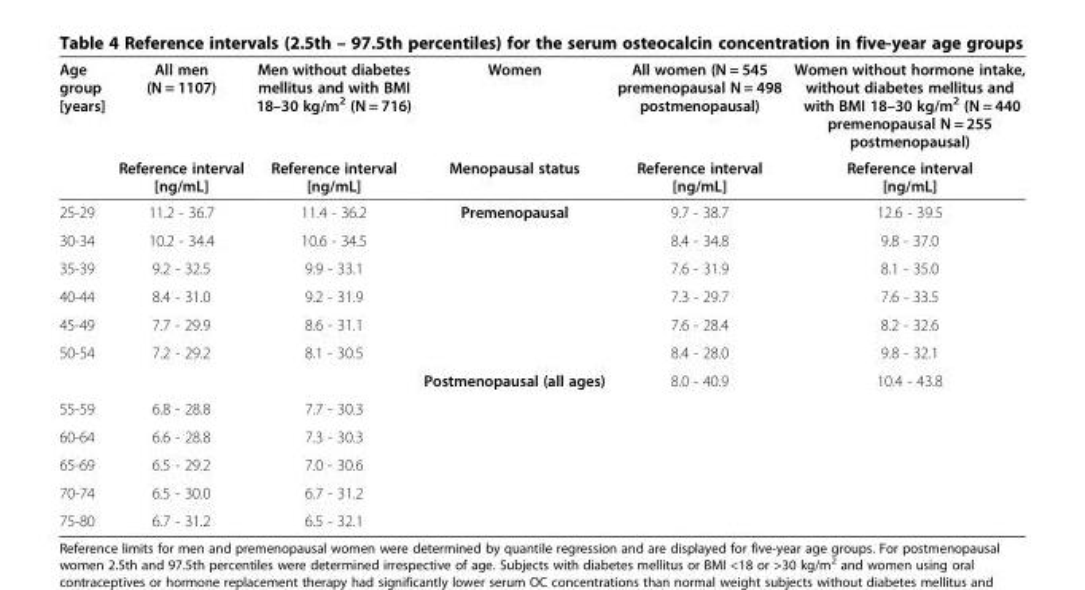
<table><thead><tr><td rowspan="2">Age group [years]</td><td rowspan="2">All men (N = 1107) Reference interval [ng/mL]</td><td rowspan="2">Men without diabetes mellitus and with BMI 18–30 kg/m<sup>2</sup> (N = 716) Reference interval [ng/mL]</td><td rowspan="2">Women Menopausal status</td><td rowspan="2">All women (N = 545 premenopausal N = 498 postmenopausal) Reference interval [ng/mL]</td><td rowspan="2">Women without hormone intake, without diabetes mellitus and with BMI 18–30 kg/m<sup>2</sup> (N = 440 premenopausal N = 255 postmenopausal) Reference interval [ng/mL]</td></tr><tr></tr></thead><tbody><tr><td>25-29</td><td>11.2 - 36.7</td><td>11.4 - 36.2</td><td>Premenopausal</td><td>9.7 - 38.7</td><td>12.6 - 39.5</td></tr><tr><td>30-34</td><td>10.2 - 34.4</td><td>10.6 - 34.5</td><td></td><td>8.4 - 34.8</td><td>9.8 - 37.0</td></tr><tr><td>35-39</td><td>9.2 - 32.5</td><td>9.9 - 33.1</td><td></td><td>7.6 - 31.9</td><td>8.1 - 35.0</td></tr><tr><td>40-44</td><td>8.4 - 31.0</td><td>9.2 - 31.9</td><td></td><td>7.3 - 29.7</td><td>7.6 - 33.5</td></tr><tr><td>45-49</td><td>7.7 - 29.9</td><td>8.6 - 31.1</td><td></td><td>7.6 - 28.4</td><td>8.2 - 32.6</td></tr><tr><td rowspan="2">50-54</td><td>7.2 - 29.2</td><td>8.1 - 30.5</td><td></td><td>8.4 - 28.0</td><td>9.8 - 32.1</td></tr><tr><td></td><td></td><td>Postmenopausal (all ages)</td><td>8.0 - 40.9</td><td>10.4 - 43.8</td></tr><tr><td>55-59</td><td>6.8 - 28.8</td><td>7.7 - 30.3</td><td></td><td></td><td></td></tr><tr><td>60-64</td><td>6.6 - 28.8</td><td>7.3 - 30.3</td><td></td><td></td><td></td></tr><tr><td>65-69</td><td>6.5 - 29.2</td><td>7.0 - 30.6</td><td></td><td></td><td></td></tr><tr><td>70-74</td><td>6.5 - 30.0</td><td>6.7 - 31.2</td><td></td><td></td><td></td></tr><tr><td>75-80</td><td>6.7 - 31.2</td><td>6.5 - 32.1</td><td></td><td></td><td></td></tr></tbody></table>